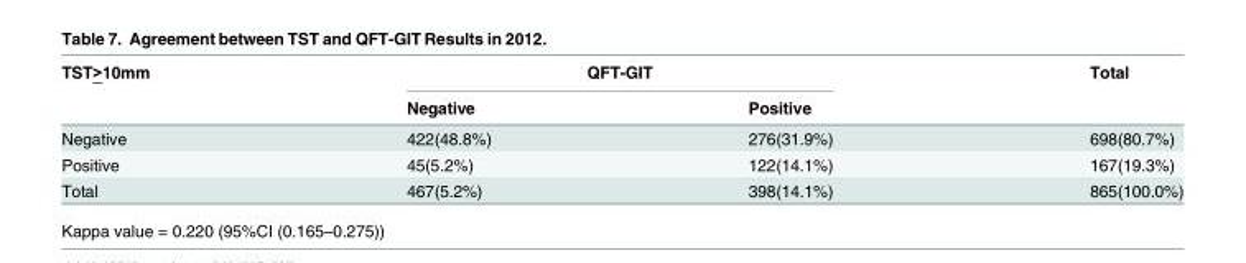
<table><thead><tr><td rowspan="2">TST&gt;10mm</td><td colspan="2">QFT-GIT</td><td rowspan="2">Total</td></tr><tr><td>Negative</td><td>Positive</td></tr></thead><tbody><tr><td>Negative</td><td>422(48.8%)</td><td>276(31.9%)</td><td>698(80.7%)</td></tr><tr><td>Positive</td><td>45(5.2%)</td><td>122(14.1%)</td><td>167(19.3%)</td></tr><tr><td>Total</td><td>467(5.2%)</td><td>398(14.1%)</td><td>865(100.0%)</td></tr></tbody></table>